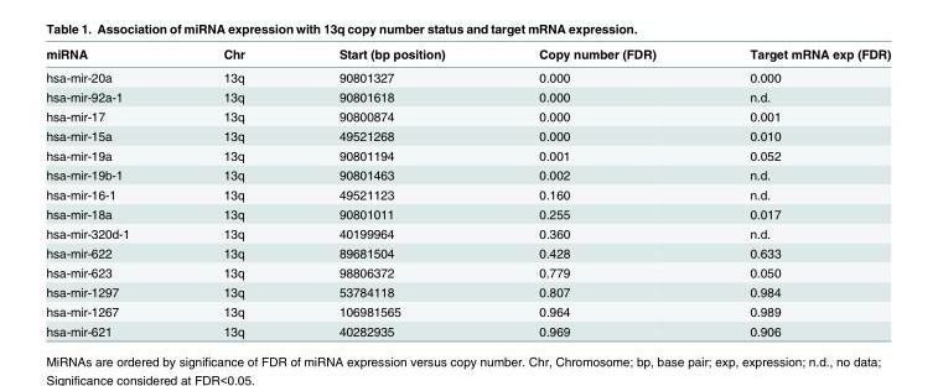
<table><thead><tr><td>miRNA</td><td>Chr</td><td>Start (bp position)</td><td>Copy number (FDR)</td><td>Target mRNA exp (FDR)</td></tr></thead><tbody><tr><td>hsa-mir-20a</td><td>13q</td><td>90801327</td><td>0.000</td><td>0.000</td></tr><tr><td>hsa-mir-92a-1</td><td>13q</td><td>90801618</td><td>0.000</td><td>n.d.</td></tr><tr><td>hsa-mir-17</td><td>13q</td><td>90800874</td><td>0.000</td><td>0.001</td></tr><tr><td>hsa-mir-15a</td><td>13q</td><td>49521268</td><td>0.000</td><td>0.010</td></tr><tr><td>hsa-mir-19a</td><td>13q</td><td>90801194</td><td>0.001</td><td>0.052</td></tr><tr><td>hsa-mir-19b-1</td><td>13q</td><td>90801463</td><td>0.002</td><td>n.d.</td></tr><tr><td>hsa-mir-16-1</td><td>13q</td><td>49521123</td><td>0.160</td><td>n.d.</td></tr><tr><td>hsa-mir-18a</td><td>13q</td><td>90801011</td><td>0.255</td><td>0.017</td></tr><tr><td>hsa-mir-320d-1</td><td>13q</td><td>40199964</td><td>0.360</td><td>n.d.</td></tr><tr><td>hsa-mir-622</td><td>13q</td><td>89681504</td><td>0.428</td><td>0.633</td></tr><tr><td>hsa-mir-623</td><td>13q</td><td>98806372</td><td>0.779</td><td>0.050</td></tr><tr><td>hsa-mir-1297</td><td>13q</td><td>53784118</td><td>0.807</td><td>0.984</td></tr><tr><td>hsa-mir-1267</td><td>13q</td><td>106981565</td><td>0.964</td><td>0.989</td></tr><tr><td>hsa-mir-621</td><td>13q</td><td>40282935</td><td>0.969</td><td>0.906</td></tr></tbody></table>